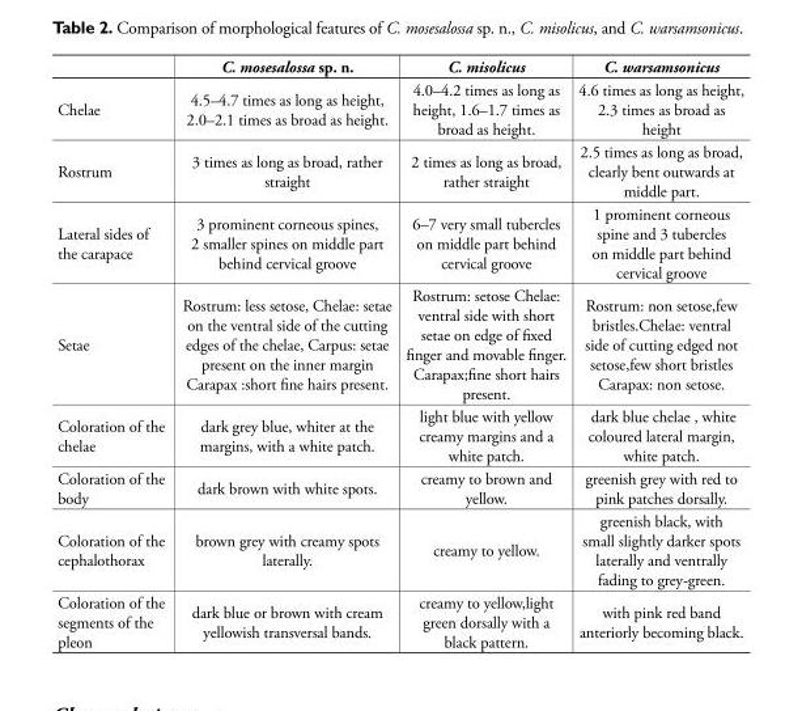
<table><thead><tr><td></td><td>C. mosesalossa sp. n.</td><td>C. misolicus</td><td>C. warsamsonicus</td></tr></thead><tbody><tr><td>Chelae</td><td>4.5–4.7 times as long as height, 2.0–2.1 times as broad as height.</td><td>4.0–4.2 times as long as height, 1.6–1.7 times as broad as height.</td><td>4.6 times as long as height, 2.3 times as broad as height</td></tr><tr><td>Rostrum</td><td>3 times as long as broad, rather straight</td><td>2 times as long as broad, rather straight</td><td>2.5 times as long as broad, clearly bent outwards at middle part.</td></tr><tr><td>Lateral sides of the carapace</td><td>3 prominent corneous spines, 2 smaller spines on middle part behind cervical groove</td><td>6–7 very small tubercles on middle part behind cervical groove</td><td>1 prominent corneous spine and 3 tubercles on middle part behind cervical groove</td></tr><tr><td>Setae</td><td>Rostrum: less setose, Chelae: setae on the ventral side of the cutting edges of the chelae, Carpus: setae present on the inner margin Carapax :short fine hairs present.</td><td>Rostrum: setose Chelae: ventral side with short setae on edge of fixed finger and movable finger. Carapax;fine short hairs present.</td><td>Rostrum: non setose,few bristles.Chelae: ventral side of cutting edged not setose,few short bristles Carapax: non setose.</td></tr><tr><td>Coloration of the chelae</td><td>dark grey blue, whiter at the margins, with a white patch.</td><td>light blue with yellow creamy margins and a white patch.</td><td>dark blue chelae , white coloured lateral margin, white patch.</td></tr><tr><td>Coloration of the body</td><td>dark brown with white spots.</td><td>creamy to brown and yellow.</td><td>greenish grey with red to pink patches dorsally.</td></tr><tr><td>Coloration of the cephalothorax</td><td>brown grey with creamy spots laterally.</td><td>creamy to yellow.</td><td>greenish black, with small slightly darker spots laterally and ventrally fading to grey-green.</td></tr><tr><td>Coloration of the segments of the pleon</td><td>dark blue or brown with cream yellowish transversal bands.</td><td>creamy to yellow,light green dorsally with a black pattern.</td><td>with pink red band anteriorly becoming black.</td></tr></tbody></table>